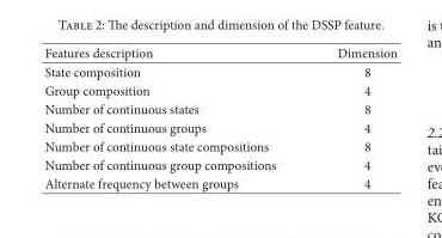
<table><thead><tr><td>Features description</td><td>Dimension</td></tr></thead><tbody><tr><td>State composition</td><td>8</td></tr><tr><td>Group composition</td><td>4</td></tr><tr><td>Number of continuous states</td><td>8</td></tr><tr><td>Number of continuous groups</td><td>4</td></tr><tr><td>Number of continuous state compositions</td><td>8</td></tr><tr><td>Number of continuous group compositions</td><td>4</td></tr><tr><td>Alternate frequency between groups</td><td>4</td></tr></tbody></table>